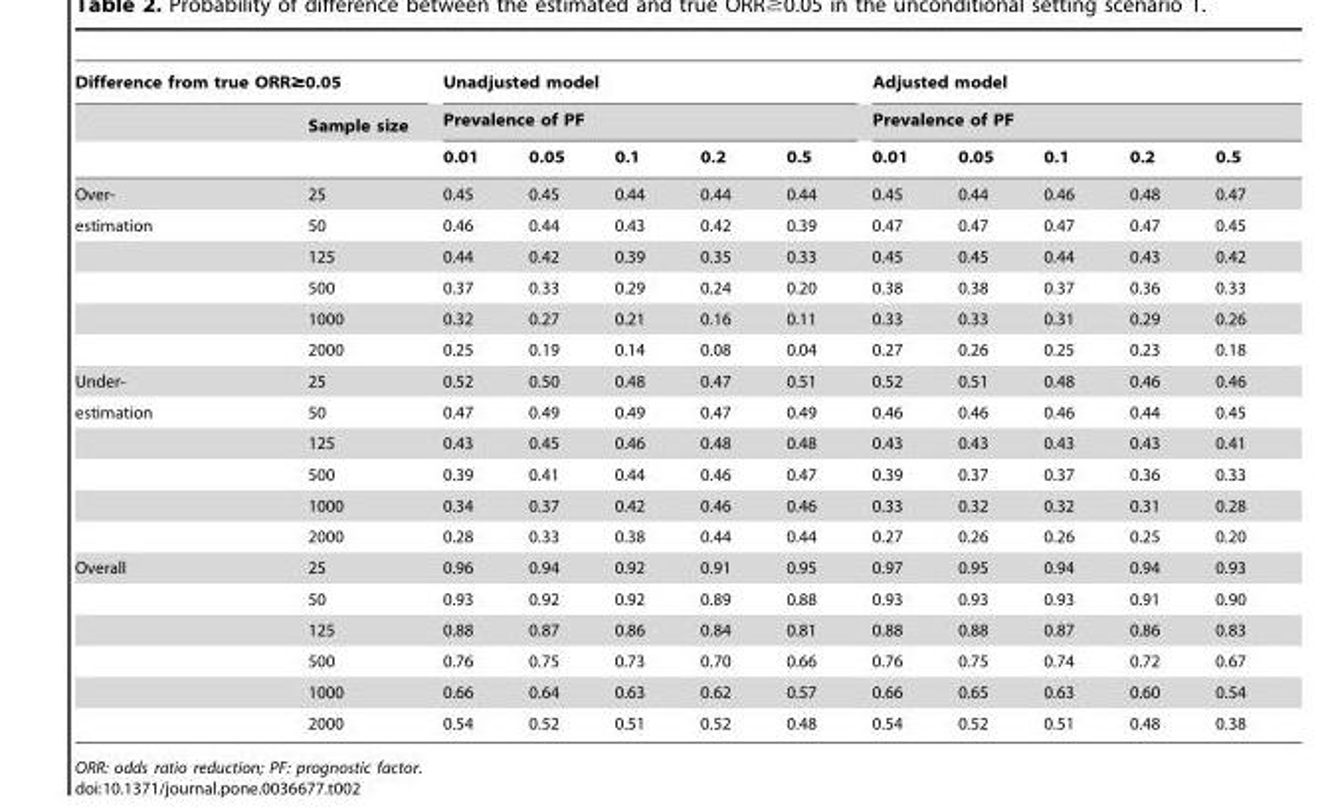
<table><thead><tr><td colspan="2">Difference from true ORR≥0.05</td><td rowspan="2" colspan="5">Unadjusted model Prevalence of PF</td><td rowspan="2" colspan="5">Adjusted model Prevalence of PF</td></tr><tr><td rowspan="2"></td><td rowspan="2">Sample size</td></tr><tr><td>0.01</td><td>0.05</td><td>0.1</td><td>0.2</td><td>0.5</td><td>0.01</td><td>0.05</td><td>0.1</td><td>0.2</td><td>0.5</td></tr></thead><tbody><tr><td>Over-</td><td>25</td><td>0.45</td><td>0.45</td><td>0.44</td><td>0.44</td><td>0.44</td><td>0.45</td><td>0.44</td><td>0.46</td><td>0.48</td><td>0.47</td></tr><tr><td rowspan="5">estimation</td><td>50</td><td>0.46</td><td>0.44</td><td>0.43</td><td>0.42</td><td>0.39</td><td>0.47</td><td>0.47</td><td>0.47</td><td>0.47</td><td>0.45</td></tr><tr><td>125</td><td>0.44</td><td>0.42</td><td>0.39</td><td>0.35</td><td>0.33</td><td>0.45</td><td>0.45</td><td>0.44</td><td>0.43</td><td>0.42</td></tr><tr><td>500</td><td>0.37</td><td>0.33</td><td>0.29</td><td>0.24</td><td>0.20</td><td>0.38</td><td>0.38</td><td>0.37</td><td>0.36</td><td>0.33</td></tr><tr><td>1000</td><td>0.32</td><td>0.27</td><td>0.21</td><td>0.16</td><td>0.11</td><td>0.33</td><td>0.33</td><td>0.31</td><td>0.29</td><td>0.26</td></tr><tr><td>2000</td><td>0.25</td><td>0.19</td><td>0.14</td><td>0.08</td><td>0.04</td><td>0.27</td><td>0.26</td><td>0.25</td><td>0.23</td><td>0.18</td></tr><tr><td>Under-</td><td>25</td><td>0.52</td><td>0.50</td><td>0.48</td><td>0.47</td><td>0.51</td><td>0.52</td><td>0.51</td><td>0.48</td><td>0.46</td><td>0.46</td></tr><tr><td rowspan="5">estimation</td><td>50</td><td>0.47</td><td>0.49</td><td>0.49</td><td>0.47</td><td>0.49</td><td>0.46</td><td>0.46</td><td>0.46</td><td>0.44</td><td>0.45</td></tr><tr><td>125</td><td>0.43</td><td>0.45</td><td>0.46</td><td>0.48</td><td>0.48</td><td>0.43</td><td>0.43</td><td>0.43</td><td>0.43</td><td>0.41</td></tr><tr><td>500</td><td>0.39</td><td>0.41</td><td>0.44</td><td>0.46</td><td>0.47</td><td>0.39</td><td>0.37</td><td>0.37</td><td>0.36</td><td>0.33</td></tr><tr><td>1000</td><td>0.34</td><td>0.37</td><td>0.42</td><td>0.46</td><td>0.46</td><td>0.33</td><td>0.32</td><td>0.32</td><td>0.31</td><td>0.28</td></tr><tr><td>2000</td><td>0.28</td><td>0.33</td><td>0.38</td><td>0.44</td><td>0.44</td><td>0.27</td><td>0.26</td><td>0.26</td><td>0.25</td><td>0.20</td></tr><tr><td rowspan="6">Overall</td><td>25</td><td>0.96</td><td>0.94</td><td>0.92</td><td>0.91</td><td>0.95</td><td>0.97</td><td>0.95</td><td>0.94</td><td>0.94</td><td>0.93</td></tr><tr><td>50</td><td>0.93</td><td>0.92</td><td>0.92</td><td>0.89</td><td>0.88</td><td>0.93</td><td>0.93</td><td>0.93</td><td>0.91</td><td>0.90</td></tr><tr><td>125</td><td>0.88</td><td>0.87</td><td>0.86</td><td>0.84</td><td>0.81</td><td>0.88</td><td>0.88</td><td>0.87</td><td>0.86</td><td>0.83</td></tr><tr><td>500</td><td>0.76</td><td>0.75</td><td>0.73</td><td>0.70</td><td>0.66</td><td>0.76</td><td>0.75</td><td>0.74</td><td>0.72</td><td>0.67</td></tr><tr><td>1000</td><td>0.66</td><td>0.64</td><td>0.63</td><td>0.62</td><td>0.57</td><td>0.66</td><td>0.65</td><td>0.63</td><td>0.60</td><td>0.54</td></tr><tr><td>2000</td><td>0.54</td><td>0.52</td><td>0.51</td><td>0.52</td><td>0.48</td><td>0.54</td><td>0.52</td><td>0.51</td><td>0.48</td><td>0.38</td></tr></tbody></table>